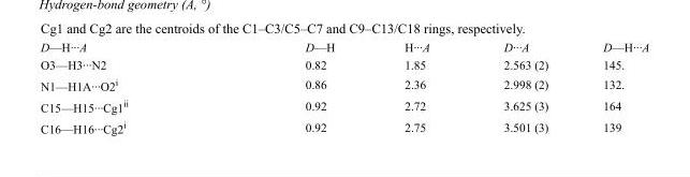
<table><tbody><tr><td>D—H···A</td><td>D—H</td><td>H···A</td><td>D···A</td><td>D—H···A</td></tr><tr><td>O3—H3···N2</td><td>0.82</td><td>1.85</td><td>2.563 (2)</td><td>145.</td></tr><tr><td>N1—H1A···O2<sup>i</sup></td><td>0.86</td><td>2.36</td><td>2.998 (2)</td><td>132.</td></tr><tr><td>C15—H15···Cg1<sup>ii</sup></td><td>0.92</td><td>2.72</td><td>3.625 (3)</td><td>164</td></tr><tr><td>C16—H16···Cg2<sup>i</sup></td><td>0.92</td><td>2.75</td><td>3.501 (3)</td><td>139</td></tr></tbody></table>